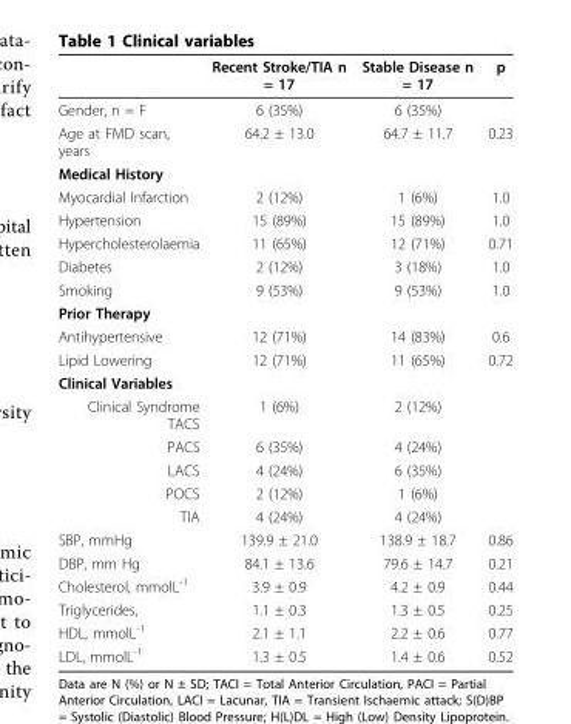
<table><thead><tr><td></td><td>Recent Stroke/TIA n = 17</td><td>Stable Disease n = 17</td><td>p</td></tr></thead><tbody><tr><td>Gender, n = F</td><td>6 (35%)</td><td>6 (35%)</td><td></td></tr><tr><td>Age at FMD scan, years</td><td>64.2 ± 13.0</td><td>64.7 ± 11.7</td><td>0.23</td></tr><tr><td colspan="4">Medical History</td></tr><tr><td>Myocardial Infarction</td><td>2 (12%)</td><td>1 (6%)</td><td>1.0</td></tr><tr><td>Hypertension</td><td>15 (89%)</td><td>15 (89%)</td><td>1.0</td></tr><tr><td>Hypercholesterolaemia</td><td>11 (65%)</td><td>12 (71%)</td><td>0.71</td></tr><tr><td>Diabetes</td><td>2 (12%)</td><td>3 (18%)</td><td>1.0</td></tr><tr><td>Smoking</td><td>9 (53%)</td><td>9 (53%)</td><td>1.0</td></tr><tr><td colspan="4">Prior Therapy</td></tr><tr><td>Antihypertensive</td><td>12 (71%)</td><td>14 (83%)</td><td>0.6</td></tr><tr><td>Lipid Lowering</td><td>12 (71%)</td><td>11 (65%)</td><td>0.72</td></tr><tr><td colspan="4">Clinical Variables</td></tr><tr><td>Clinical Syndrome TACS</td><td>1 (6%)</td><td>2 (12%)</td><td></td></tr><tr><td>PACS</td><td>6 (35%)</td><td>4 (24%)</td><td></td></tr><tr><td>LACS</td><td>4 (24%)</td><td>6 (35%)</td><td></td></tr><tr><td>POCS</td><td>2 (12%)</td><td>1 (6%)</td><td></td></tr><tr><td>TIA</td><td>4 (24%)</td><td>4 (24%)</td><td></td></tr><tr><td>SBP, mmHg</td><td>139.9 ± 21.0</td><td>138.9 ± 18.7</td><td>0.86</td></tr><tr><td>DBP, mm Hg</td><td>84.1 ± 13.6</td><td>79.6 ± 14.7</td><td>0.21</td></tr><tr><td>Cholesterol, mmolL<sup>-1</sup></td><td>3.9 ± 0.9</td><td>4.2 ± 0.9</td><td>0.44</td></tr><tr><td>Triglycerides,</td><td>1.1 ± 0.3</td><td>1.3 ± 0.5</td><td>0.25</td></tr><tr><td>HDL, mmolL<sup>-1</sup></td><td>2.1 ± 1.1</td><td>2.2 ± 0.6</td><td>0.77</td></tr><tr><td>LDL, mmolL<sup>-1</sup></td><td>1.3 ± 0.5</td><td>1.4 ± 0.6</td><td>0.52</td></tr></tbody></table>